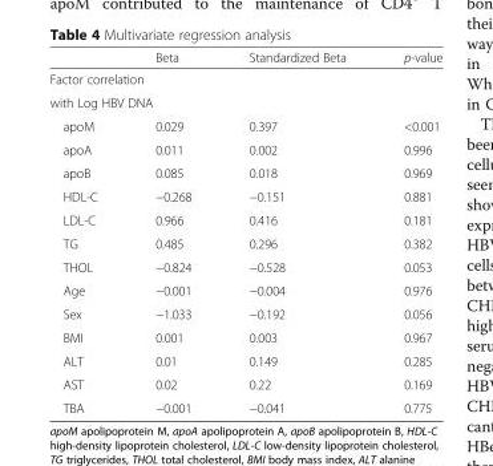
<table><thead><tr><td></td><td>Beta</td><td>Standardized Beta</td><td>p-value</td></tr></thead><tbody><tr><td colspan="4">Factor correlation</td></tr><tr><td colspan="4">with Log HBV DNA</td></tr><tr><td>apoM</td><td>0.029</td><td>0.397</td><td>&lt;0.001</td></tr><tr><td>apoA</td><td>0.011</td><td>0.002</td><td>0.996</td></tr><tr><td>apoB</td><td>0.085</td><td>0.018</td><td>0.969</td></tr><tr><td>HDL-C</td><td>−0.268</td><td>−0.151</td><td>0.881</td></tr><tr><td>LDL-C</td><td>0.966</td><td>0.416</td><td>0.181</td></tr><tr><td>TG</td><td>0.485</td><td>0.296</td><td>0.382</td></tr><tr><td>THOL</td><td>−0.824</td><td>−0.528</td><td>0.053</td></tr><tr><td>Age</td><td>−0.001</td><td>−0.004</td><td>0.976</td></tr><tr><td>Sex</td><td>−1.033</td><td>−0.192</td><td>0.056</td></tr><tr><td>BMI</td><td>0.001</td><td>0.003</td><td>0.967</td></tr><tr><td>ALT</td><td>0.01</td><td>0.149</td><td>0.285</td></tr><tr><td>AST</td><td>0.02</td><td>0.22</td><td>0.169</td></tr><tr><td>TBA</td><td>−0.001</td><td>−0.041</td><td>0.775</td></tr></tbody></table>